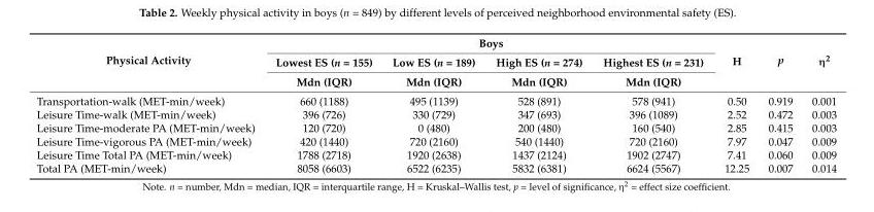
<table><thead><tr><td rowspan="3">Physical Activity</td><td colspan="4">Boys</td><td rowspan="3">H</td><td rowspan="3">p</td><td rowspan="3">η<sup>2</sup></td></tr><tr><td rowspan="2">Lowest ES (n = 155) Mdn (IQR)</td><td rowspan="2">Low ES (n = 189) Mdn (IQR)</td><td rowspan="2">High ES (n = 274) Mdn (IQR)</td><td rowspan="2">Highest ES (n = 231) Mdn (IQR)</td></tr><tr></tr></thead><tbody><tr><td>Transportation-walk (MET-min/week)</td><td>660 (1188)</td><td>495 (1139)</td><td>528 (891)</td><td>578 (941)</td><td>0.50</td><td>0.919</td><td>0.001</td></tr><tr><td>Leisure Time-walk (MET-min/week)</td><td>396 (726)</td><td>330 (729)</td><td>347 (693)</td><td>396 (1089)</td><td>2.52</td><td>0.472</td><td>0.003</td></tr><tr><td>Leisure Time-moderate PA (MET-min/week)</td><td>120 (720)</td><td>0 (480)</td><td>200 (480)</td><td>160 (540)</td><td>2.85</td><td>0.415</td><td>0.003</td></tr><tr><td>Leisure Time-vigorous PA (MET-min/week)</td><td>420 (1440)</td><td>720 (2160)</td><td>540 (1440)</td><td>720 (2160)</td><td>7.97</td><td>0.047</td><td>0.009</td></tr><tr><td>Leisure Time Total PA (MET-min/week)</td><td>1788 (2718)</td><td>1920 (2638)</td><td>1437 (2124)</td><td>1902 (2747)</td><td>7.41</td><td>0.060</td><td>0.009</td></tr><tr><td>Total PA (MET-min/week)</td><td>8058 (6603)</td><td>6522 (6235)</td><td>5832 (6381)</td><td>6624 (5567)</td><td>12.25</td><td>0.007</td><td>0.014</td></tr></tbody></table>